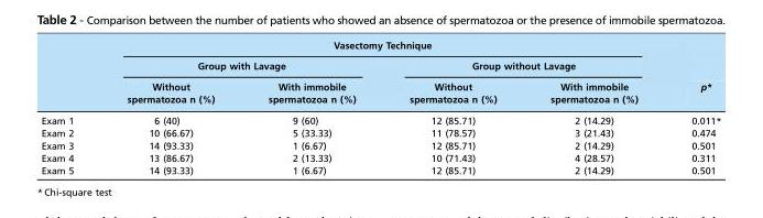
<table><thead><tr><td rowspan="3"></td><td colspan="4">Vasectomy Technique</td><td rowspan="3">p*</td></tr><tr><td colspan="2">Group with Lavage</td><td colspan="2">Group without Lavage</td></tr><tr><td>Without spermatozoa n (%)</td><td>With immobile spermatozoa n (%)</td><td>Without spermatozoa n (%)</td><td>With immobile spermatozoa n (%)</td></tr></thead><tbody><tr><td>Exam 1</td><td>6 (40)</td><td>9 (60)</td><td>12 (85.71)</td><td>2 (14.29)</td><td>0.011*</td></tr><tr><td>Exam 2</td><td>10 (66.67)</td><td>5 (33.33)</td><td>11 (78.57)</td><td>3 (21.43)</td><td>0.474</td></tr><tr><td>Exam 3</td><td>14 (93.33)</td><td>1 (6.67)</td><td>12 (85.71)</td><td>2 (14.29)</td><td>0.501</td></tr><tr><td>Exam 4</td><td>13 (86.67)</td><td>2 (13.33)</td><td>10 (71.43)</td><td>4 (28.57)</td><td>0.311</td></tr><tr><td>Exam 5</td><td>14 (93.33)</td><td>1 (6.67)</td><td>12 (85.71)</td><td>2 (14.29)</td><td>0.501</td></tr></tbody></table>